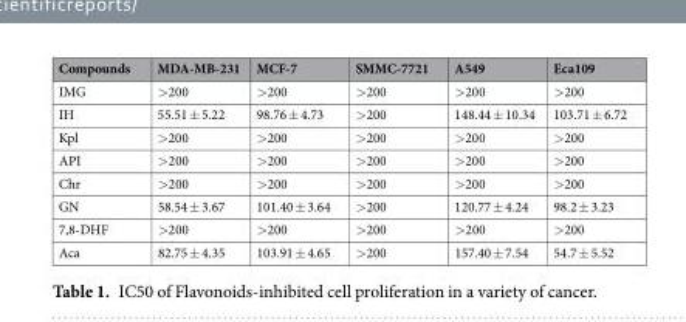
<table><thead><tr><td>Compounds</td><td>MDA-MB-231</td><td>MCF-7</td><td>SMMC-7721</td><td>A549</td><td>Eca109</td></tr></thead><tbody><tr><td>IMG</td><td>&gt;200</td><td>&gt;200</td><td>&gt;200</td><td>&gt;200</td><td>&gt;200</td></tr><tr><td>IH</td><td>55.51 ± 5.22</td><td>98.76 ± 4.73</td><td>&gt;200</td><td>148.44 ± 10.34</td><td>103.71 ± 6.72</td></tr><tr><td>Kpl</td><td>&gt;200</td><td>&gt;200</td><td>&gt;200</td><td>&gt;200</td><td>&gt;200</td></tr><tr><td>API</td><td>&gt;200</td><td>&gt;200</td><td>&gt;200</td><td>&gt;200</td><td>&gt;200</td></tr><tr><td>Chr</td><td>&gt;200</td><td>&gt;200</td><td>&gt;200</td><td>&gt;200</td><td>&gt;200</td></tr><tr><td>GN</td><td>58.54 ± 3.67</td><td>101.40 ± 3.64</td><td>&gt;200</td><td>120.77 ± 4.24</td><td>98.2 ± 3.23</td></tr><tr><td>7,8-DHF</td><td>&gt;200</td><td>&gt;200</td><td>&gt;200</td><td>&gt;200</td><td>&gt;200</td></tr><tr><td>Aca</td><td>82.75 ± 4.35</td><td>103.91 ± 4.65</td><td>&gt;200</td><td>157.40 ± 7.54</td><td>54.7 ± 5.52</td></tr></tbody></table>